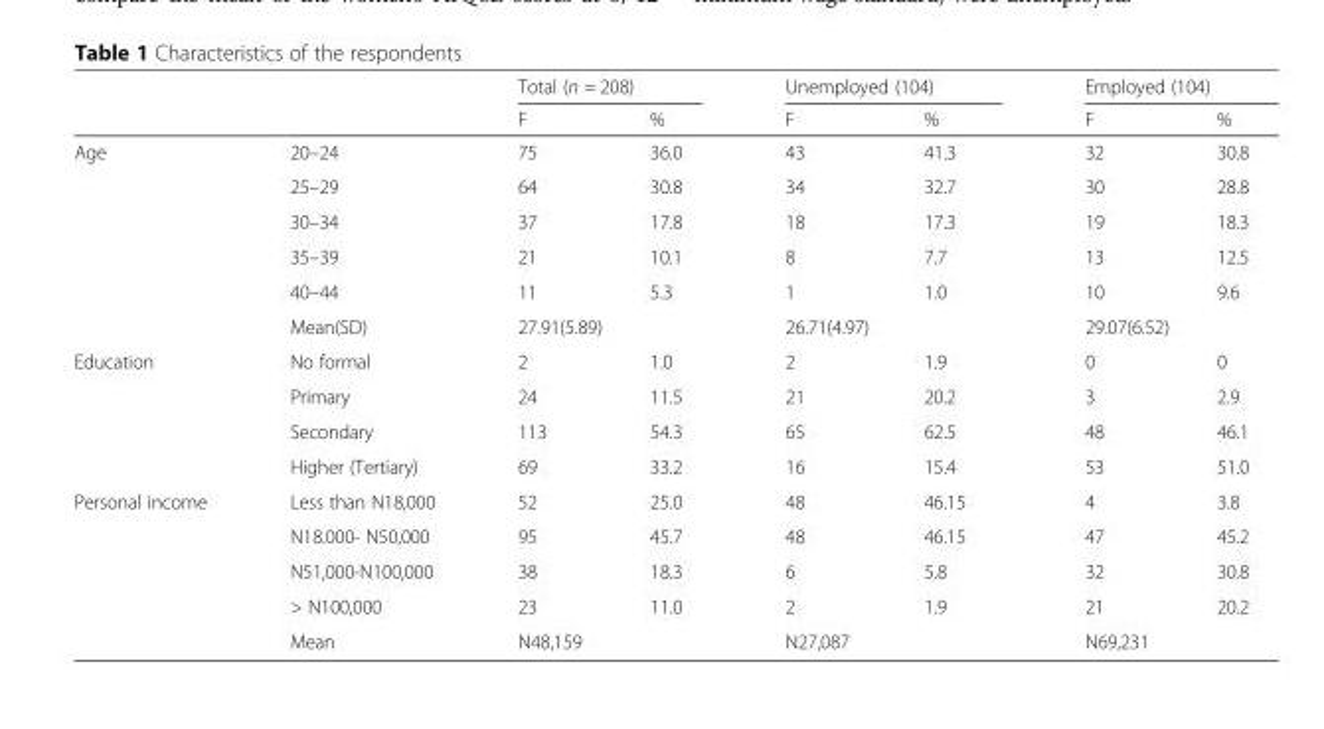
<table><thead><tr><td rowspan="2"></td><td rowspan="2"></td><td colspan="2">Total (n = 208)</td><td colspan="2">Unemployed (104)</td><td colspan="2">Employed (104)</td></tr><tr><td>F</td><td>%</td><td>F</td><td>%</td><td>F</td><td>%</td></tr></thead><tbody><tr><td rowspan="6">Age</td><td>20–24</td><td>75</td><td>36.0</td><td>43</td><td>41.3</td><td>32</td><td>30.8</td></tr><tr><td>25–29</td><td>64</td><td>30.8</td><td>34</td><td>32.7</td><td>30</td><td>28.8</td></tr><tr><td>30–34</td><td>37</td><td>17.8</td><td>18</td><td>17.3</td><td>19</td><td>18.3</td></tr><tr><td>35–39</td><td>21</td><td>10.1</td><td>8</td><td>7.7</td><td>13</td><td>12.5</td></tr><tr><td>40–44</td><td>11</td><td>5.3</td><td>1</td><td>1.0</td><td>10</td><td>9.6</td></tr><tr><td>Mean(SD)</td><td colspan="2">27.91(5.89)</td><td colspan="2">26.71(4.97)</td><td colspan="2">29.07(6.52)</td></tr><tr><td rowspan="4">Education</td><td>No formal</td><td>2</td><td>1.0</td><td>2</td><td>1.9</td><td>0</td><td>0</td></tr><tr><td>Primary</td><td>24</td><td>11.5</td><td>21</td><td>20.2</td><td>3</td><td>2.9</td></tr><tr><td>Secondary</td><td>113</td><td>54.3</td><td>65</td><td>62.5</td><td>48</td><td>46.1</td></tr><tr><td>Higher (Tertiary)</td><td>69</td><td>33.2</td><td>16</td><td>15.4</td><td>53</td><td>51.0</td></tr><tr><td rowspan="5">Personal income</td><td>Less than N18,000</td><td>52</td><td>25.0</td><td>48</td><td>46.15</td><td>4</td><td>3.8</td></tr><tr><td>N18.000- N50,000</td><td>95</td><td>45.7</td><td>48</td><td>46.15</td><td>47</td><td>45.2</td></tr><tr><td>N51,000-N100,000</td><td>38</td><td>18.3</td><td>6</td><td>5.8</td><td>32</td><td>30.8</td></tr><tr><td>&gt; N100,000</td><td>23</td><td>11.0</td><td>2</td><td>1.9</td><td>21</td><td>20.2</td></tr><tr><td>Mean</td><td colspan="2">N48,159</td><td colspan="2">N27,087</td><td colspan="2">N69,231</td></tr></tbody></table>